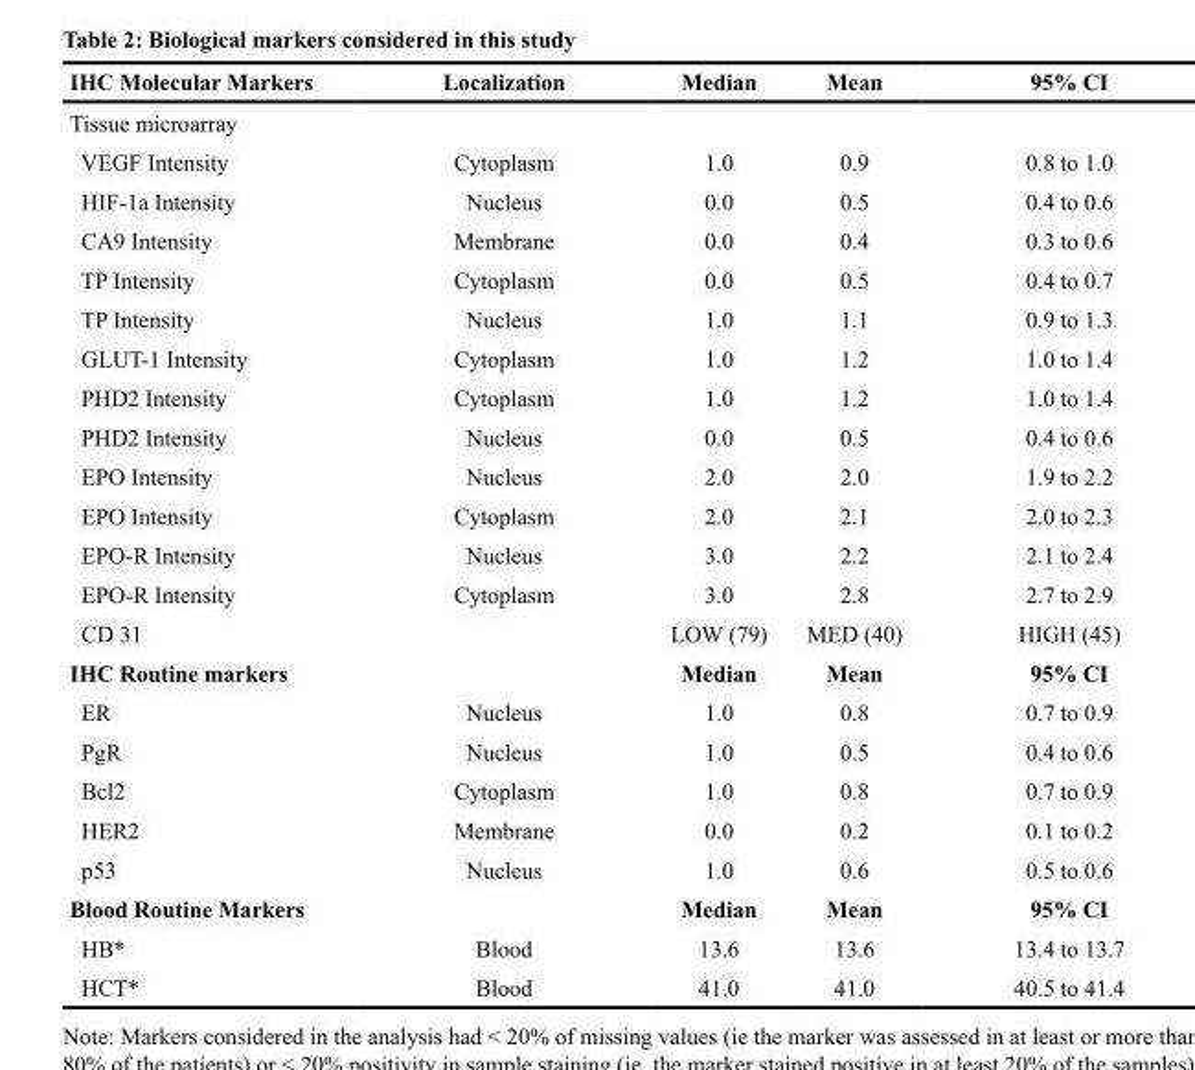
<table><thead><tr><td>IHC Molecular Markers</td><td>Localization</td><td>Median</td><td>Mean</td><td>95% CI</td></tr></thead><tbody><tr><td colspan="5">Tissue microarray</td></tr><tr><td>VEGF Intensity</td><td>Cytoplasm</td><td>1.0</td><td>0.9</td><td>0.8 to 1.0</td></tr><tr><td>HIF-1a Intensity</td><td>Nucleus</td><td>0.0</td><td>0.5</td><td>0.4 to 0.6</td></tr><tr><td>CA9 Intensity</td><td>Membrane</td><td>0.0</td><td>0.4</td><td>0.3 to 0.6</td></tr><tr><td>TP Intensity</td><td>Cytoplasm</td><td>0.0</td><td>0.5</td><td>0.4 to 0.7</td></tr><tr><td>TP Intensity</td><td>Nucleus</td><td>1.0</td><td>1.1</td><td>0.9 to 1.3</td></tr><tr><td>GLUT-1 Intensity</td><td>Cytoplasm</td><td>1.0</td><td>1.2</td><td>1.0 to 1.4</td></tr><tr><td>PHD2 Intensity</td><td>Cytoplasm</td><td>1.0</td><td>1.2</td><td>1.0 to 1.4</td></tr><tr><td>PHD2 Intensity</td><td>Nucleus</td><td>0.0</td><td>0.5</td><td>0.4 to 0.6</td></tr><tr><td>EPO Intensity</td><td>Nucleus</td><td>2.0</td><td>2.0</td><td>1.9 to 2.2</td></tr><tr><td>EPO Intensity</td><td>Cytoplasm</td><td>2.0</td><td>2.1</td><td>2.0 to 2.3</td></tr><tr><td>EPO-R Intensity</td><td>Nucleus</td><td>3.0</td><td>2.2</td><td>2.1 to 2.4</td></tr><tr><td>EPO-R Intensity</td><td>Cytoplasm</td><td>3.0</td><td>2.8</td><td>2.7 to 2.9</td></tr><tr><td>CD 31</td><td></td><td>LOW (79)</td><td>MED (40)</td><td>HIGH (45)</td></tr><tr><td>IHC Routine markers</td><td></td><td>Median</td><td>Mean</td><td>95% CI</td></tr><tr><td>ER</td><td>Nucleus</td><td>1.0</td><td>0.8</td><td>0.7 to 0.9</td></tr><tr><td>PgR</td><td>Nucleus</td><td>1.0</td><td>0.5</td><td>0.4 to 0.6</td></tr><tr><td>Bcl2</td><td>Cytoplasm</td><td>1.0</td><td>0.8</td><td>0.7 to 0.9</td></tr><tr><td>HER2</td><td>Membrane</td><td>0.0</td><td>0.2</td><td>0.1 to 0.2</td></tr><tr><td>p53</td><td>Nucleus</td><td>1.0</td><td>0.6</td><td>0.5 to 0.6</td></tr><tr><td>Blood Routine Markers</td><td></td><td>Median</td><td>Mean</td><td>95% CI</td></tr><tr><td>HB*</td><td>Blood</td><td>13.6</td><td>13.6</td><td>13.4 to 13.7</td></tr><tr><td>HCT*</td><td>Blood</td><td>41.0</td><td>41.0</td><td>40.5 to 41.4</td></tr></tbody></table>